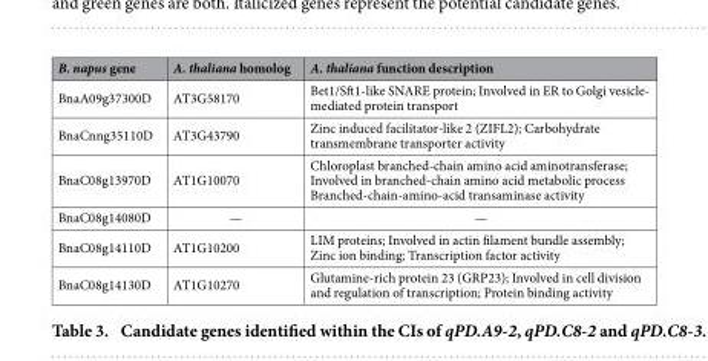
<table><thead><tr><td>B. napus gene</td><td>A. thaliana homolog</td><td>A. thaliana function description</td></tr></thead><tbody><tr><td>BnaA09g37300D</td><td>AT3G58170</td><td>Bet1/Sft1-like SNARE protein; Involved in ER to Golgi vesicle- mediated protein transport</td></tr><tr><td>BnaCnng35110D</td><td>AT3G43790</td><td>Zinc induced facilitator-like 2 (ZIFL2); Carbohydrate transmembrane transporter activity</td></tr><tr><td>BnaC08g13970D</td><td>AT1G10070</td><td>Chloroplast branched-chain amino acid aminotransferase; Involved in branched-chain amino acid metabolic process Branched-chain-amino-acid transaminase activity</td></tr><tr><td>BnaC08g14080D</td><td>—</td><td>—</td></tr><tr><td>BnaC08g14110D</td><td>AT1G10200</td><td>LIM proteins; Involved in actin filament bundle assembly; Zinc ion binding; Transcription factor activity</td></tr><tr><td>BnaC08g14130D</td><td>AT1G10270</td><td>Glutamine-rich protein 23 (GRP23); Involved in cell division and regulation of transcription; Protein binding activity</td></tr></tbody></table>